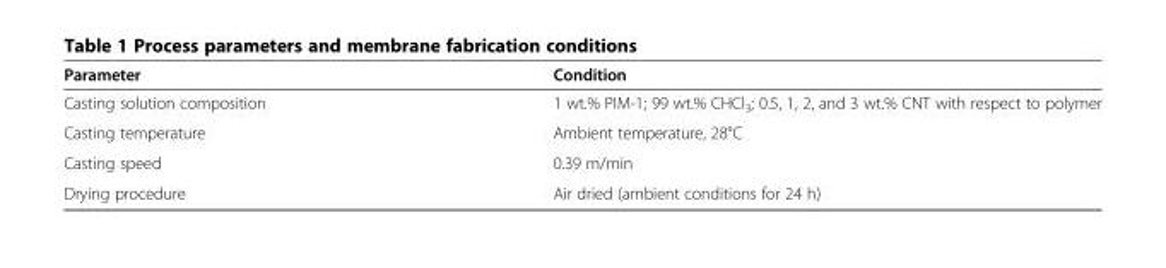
<table><thead><tr><td>Parameter</td><td>Condition</td></tr></thead><tbody><tr><td>Casting solution composition</td><td>1 wt.% PIM-1; 99 wt.% CHCl<sub>3</sub>; 0.5, 1, 2, and 3 wt.% CNT with respect to polymer</td></tr><tr><td>Casting temperature</td><td>Ambient temperature, 28°C</td></tr><tr><td>Casting speed</td><td>0.39 m/min</td></tr><tr><td>Drying procedure</td><td>Air dried (ambient conditions for 24 h)</td></tr></tbody></table>